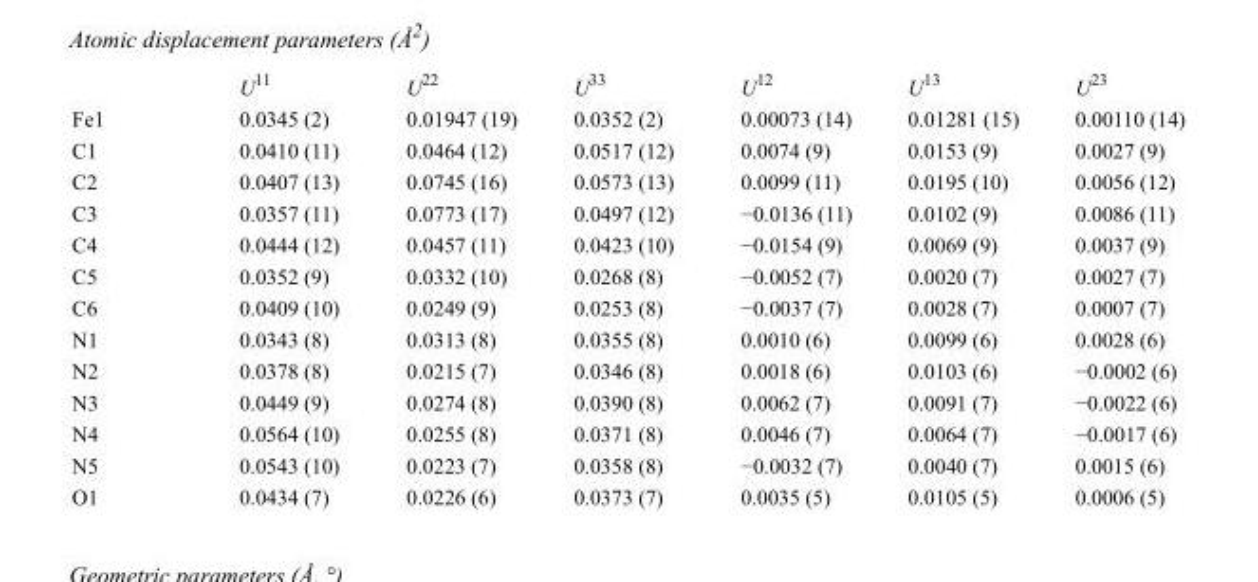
<table><thead><tr><td></td><td>U<sup>11</sup></td><td>U<sup>22</sup></td><td>U<sup>33</sup></td><td>U<sup>12</sup></td><td>U<sup>13</sup></td><td>U<sup>23</sup></td></tr></thead><tbody><tr><td>Fe1</td><td>0.0345 (2)</td><td>0.01947 (19)</td><td>0.0352 (2)</td><td>0.00073 (14)</td><td>0.01281 (15)</td><td>0.00110 (14)</td></tr><tr><td>C1</td><td>0.0410 (11)</td><td>0.0464 (12)</td><td>0.0517 (12)</td><td>0.0074 (9)</td><td>0.0153 (9)</td><td>0.0027 (9)</td></tr><tr><td>C2</td><td>0.0407 (13)</td><td>0.0745 (16)</td><td>0.0573 (13)</td><td>0.0099 (11)</td><td>0.0195 (10)</td><td>0.0056 (12)</td></tr><tr><td>C3</td><td>0.0357 (11)</td><td>0.0773 (17)</td><td>0.0497 (12)</td><td>−0.0136 (11)</td><td>0.0102 (9)</td><td>0.0086 (11)</td></tr><tr><td>C4</td><td>0.0444 (12)</td><td>0.0457 (11)</td><td>0.0423 (10)</td><td>−0.0154 (9)</td><td>0.0069 (9)</td><td>0.0037 (9)</td></tr><tr><td>C5</td><td>0.0352 (9)</td><td>0.0332 (10)</td><td>0.0268 (8)</td><td>−0.0052 (7)</td><td>0.0020 (7)</td><td>0.0027 (7)</td></tr><tr><td>C6</td><td>0.0409 (10)</td><td>0.0249 (9)</td><td>0.0253 (8)</td><td>−0.0037 (7)</td><td>0.0028 (7)</td><td>0.0007 (7)</td></tr><tr><td>N1</td><td>0.0343 (8)</td><td>0.0313 (8)</td><td>0.0355 (8)</td><td>0.0010 (6)</td><td>0.0099 (6)</td><td>0.0028 (6)</td></tr><tr><td>N2</td><td>0.0378 (8)</td><td>0.0215 (7)</td><td>0.0346 (8)</td><td>0.0018 (6)</td><td>0.0103 (6)</td><td>−0.0002 (6)</td></tr><tr><td>N3</td><td>0.0449 (9)</td><td>0.0274 (8)</td><td>0.0390 (8)</td><td>0.0062 (7)</td><td>0.0091 (7)</td><td>−0.0022 (6)</td></tr><tr><td>N4</td><td>0.0564 (10)</td><td>0.0255 (8)</td><td>0.0371 (8)</td><td>0.0046 (7)</td><td>0.0064 (7)</td><td>−0.0017 (6)</td></tr><tr><td>N5</td><td>0.0543 (10)</td><td>0.0223 (7)</td><td>0.0358 (8)</td><td>−0.0032 (7)</td><td>0.0040 (7)</td><td>0.0015 (6)</td></tr><tr><td>O1</td><td>0.0434 (7)</td><td>0.0226 (6)</td><td>0.0373 (7)</td><td>0.0035 (5)</td><td>0.0105 (5)</td><td>0.0006 (5)</td></tr></tbody></table>